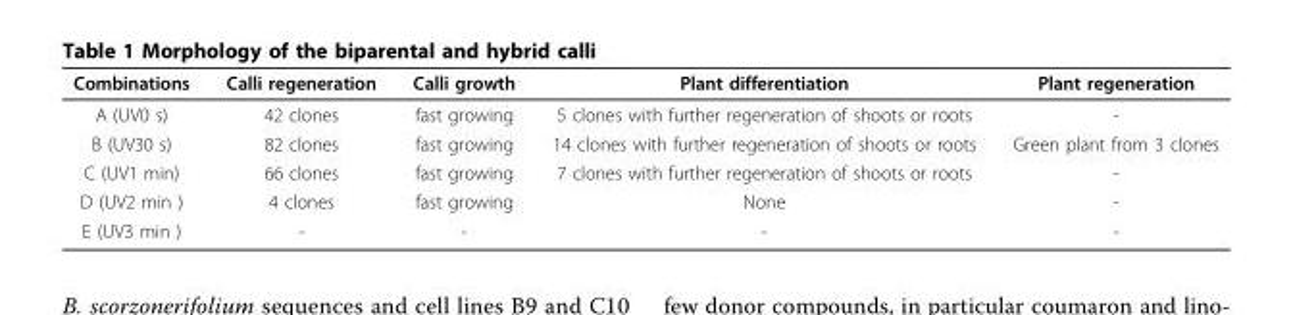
<table><thead><tr><td>Combinations</td><td>Calli regeneration</td><td>Calli growth</td><td>Plant differentiation</td><td>Plant regeneration</td></tr></thead><tbody><tr><td>A (UV0 s)</td><td>42 clones</td><td>fast growing</td><td>5 clones with further regeneration of shoots or roots</td><td>-</td></tr><tr><td>B (UV30 s)</td><td>82 clones</td><td>fast growing</td><td>14 clones with further regeneration of shoots or roots</td><td>Green plant from 3 clones</td></tr><tr><td>C (UV1 min)</td><td>66 clones</td><td>fast growing</td><td>7 clones with further regeneration of shoots or roots</td><td>-</td></tr><tr><td>D (UV2 min )</td><td>4 clones</td><td>fast growing</td><td>None</td><td>-</td></tr><tr><td>E (UV3 min )</td><td>-</td><td>-</td><td>-</td><td>-</td></tr></tbody></table>